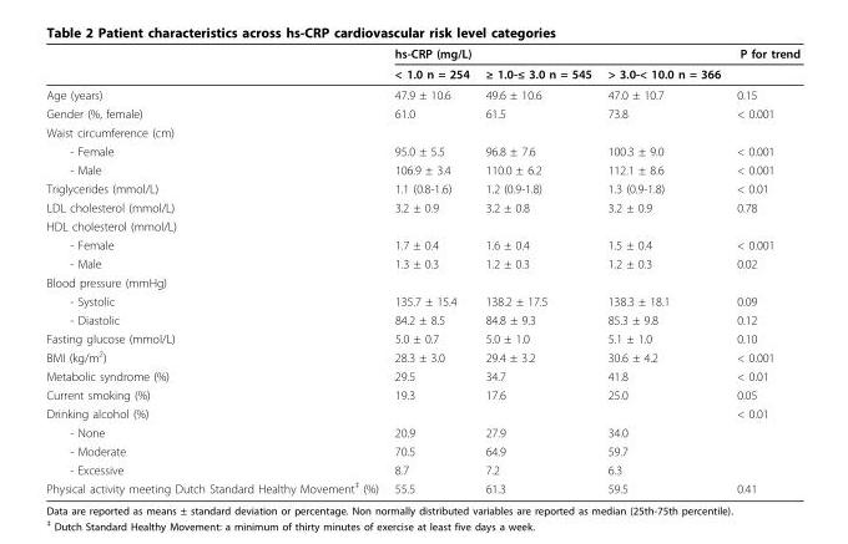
<table><thead><tr><td rowspan="2"></td><td colspan="3">hs-CRP (mg/L)</td><td rowspan="2">P for trend</td></tr><tr><td>&lt; 1.0 n = 254</td><td>≥ 1.0-≤ 3.0 n = 545</td><td>&gt; 3.0-&lt; 10.0 n = 366</td></tr></thead><tbody><tr><td>Age (years)</td><td>47.9 ± 10.6</td><td>49.6 ± 10.6</td><td>47.0 ± 10.7</td><td>0.15</td></tr><tr><td>Gender (%, female)</td><td>61.0</td><td>61.5</td><td>73.8</td><td>&lt; 0.001</td></tr><tr><td colspan="5">Waist circumference (cm)</td></tr><tr><td>- Female</td><td>95.0 ± 5.5</td><td>96.8 ± 7.6</td><td>100.3 ± 9.0</td><td>&lt; 0.001</td></tr><tr><td>- Male</td><td>106.9 ± 3.4</td><td>110.0 ± 6.2</td><td>112.1 ± 8.6</td><td>&lt; 0.001</td></tr><tr><td>Triglycerides (mmol/L)</td><td>1.1 (0.8-1.6)</td><td>1.2 (0.9-1.8)</td><td>1.3 (0.9-1.8)</td><td>&lt; 0.01</td></tr><tr><td>LDL cholesterol (mmol/L)</td><td>3.2 ± 0.9</td><td>3.2 ± 0.8</td><td>3.2 ± 0.9</td><td>0.78</td></tr><tr><td colspan="5">HDL cholesterol (mmol/L)</td></tr><tr><td>- Female</td><td>1.7 ± 0.4</td><td>1.6 ± 0.4</td><td>1.5 ± 0.4</td><td>&lt; 0.001</td></tr><tr><td>- Male</td><td>1.3 ± 0.3</td><td>1.2 ± 0.3</td><td>1.2 ± 0.3</td><td>0.02</td></tr><tr><td colspan="5">Blood pressure (mmHg)</td></tr><tr><td>- Systolic</td><td>135.7 ± 15.4</td><td>138.2 ± 17.5</td><td>138.3 ± 18.1</td><td>0.09</td></tr><tr><td>- Diastolic</td><td>84.2 ± 8.5</td><td>84.8 ± 9.3</td><td>85.3 ± 9.8</td><td>0.12</td></tr><tr><td>Fasting glucose (mmol/L)</td><td>5.0 ± 0.7</td><td>5.0 ± 1.0</td><td>5.1 ± 1.0</td><td>0.10</td></tr><tr><td>BMI (kg/m<sup>2</sup>)</td><td>28.3 ± 3.0</td><td>29.4 ± 3.2</td><td>30.6 ± 4.2</td><td>&lt; 0.001</td></tr><tr><td>Metabolic syndrome (%)</td><td>29.5</td><td>34.7</td><td>41.8</td><td>&lt; 0.01</td></tr><tr><td>Current smoking (%)</td><td>19.3</td><td>17.6</td><td>25.0</td><td>0.05</td></tr><tr><td>Drinking alcohol (%)</td><td></td><td></td><td></td><td>&lt; 0.01</td></tr><tr><td>- None</td><td>20.9</td><td>27.9</td><td>34.0</td><td></td></tr><tr><td>- Moderate</td><td>70.5</td><td>64.9</td><td>59.7</td><td></td></tr><tr><td>- Excessive</td><td>8.7</td><td>7.2</td><td>6.3</td><td></td></tr><tr><td>Physical activity meeting Dutch Standard Healthy Movement<sup>‡</sup> (%)</td><td>55.5</td><td>61.3</td><td>59.5</td><td>0.41</td></tr></tbody></table>